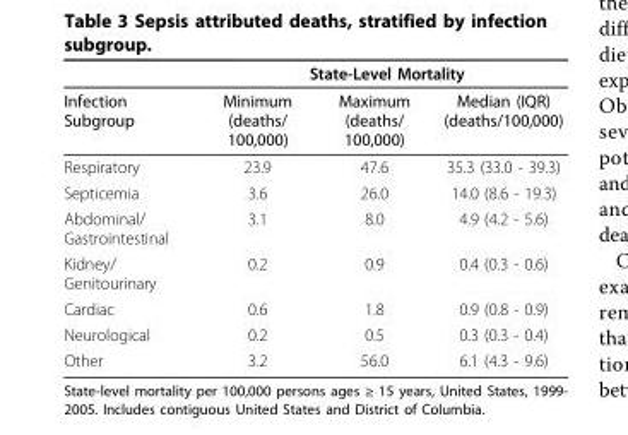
<table><thead><tr><td rowspan="2">Infection Subgroup</td><td colspan="3">State-Level Mortality</td></tr><tr><td>Minimum (deaths/ 100,000)</td><td>Maximum (deaths/ 100,000)</td><td>Median (IQR) (deaths/100,000)</td></tr></thead><tbody><tr><td>Respiratory</td><td>23.9</td><td>47.6</td><td>35.3 (33.0 - 39.3)</td></tr><tr><td>Septicemia</td><td>3.6</td><td>26.0</td><td>14.0 (8.6 - 19.3)</td></tr><tr><td>Abdominal/ Gastrointestinal</td><td>3.1</td><td>8.0</td><td>4.9 (4.2 - 5.6)</td></tr><tr><td>Kidney/ Genitourinary</td><td>0.2</td><td>0.9</td><td>0.4 (0.3 - 0.6)</td></tr><tr><td>Cardiac</td><td>0.6</td><td>1.8</td><td>0.9 (0.8 - 0.9)</td></tr><tr><td>Neurological</td><td>0.2</td><td>0.5</td><td>0.3 (0.3 - 0.4)</td></tr><tr><td>Other</td><td>3.2</td><td>56.0</td><td>6.1 (4.3 - 9.6)</td></tr></tbody></table>